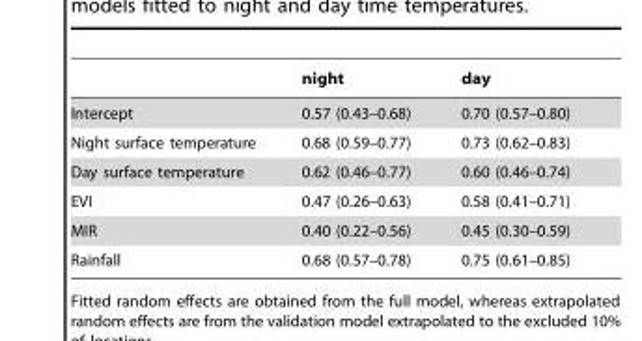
<table><thead><tr><td></td><td>night</td><td>day</td></tr></thead><tbody><tr><td>Intercept</td><td>0.57 (0.43–0.68)</td><td>0.70 (0.57–0.80)</td></tr><tr><td>Night surface temperature</td><td>0.68 (0.59–0.77)</td><td>0.73 (0.62–0.83)</td></tr><tr><td>Day surface temperature</td><td>0.62 (0.46–0.77)</td><td>0.60 (0.46–0.74)</td></tr><tr><td>EVI</td><td>0.47 (0.26–0.63)</td><td>0.58 (0.41–0.71)</td></tr><tr><td>MIR</td><td>0.40 (0.22–0.56)</td><td>0.45 (0.30–0.59)</td></tr><tr><td>Rainfall</td><td>0.68 (0.57–0.78)</td><td>0.75 (0.61–0.85)</td></tr></tbody></table>